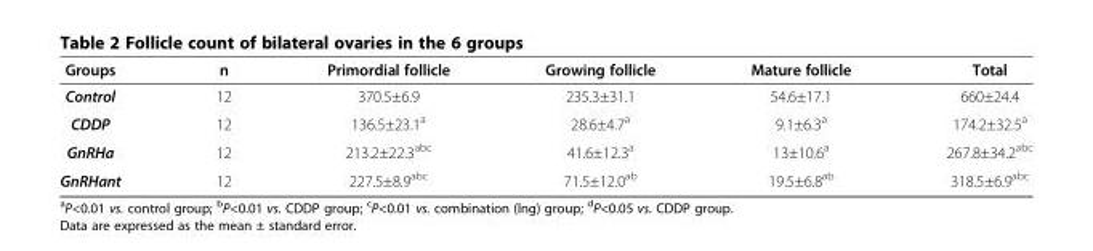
<table><thead><tr><td>Groups</td><td>n</td><td>Primordial follicle</td><td>Growing follicle</td><td>Mature follicle</td><td>Total</td></tr></thead><tbody><tr><td>Control</td><td>12</td><td>370.5±6.9</td><td>235.3±31.1</td><td>54.6±17.1</td><td>660±24.4</td></tr><tr><td>CDDP</td><td>12</td><td>136.5±23.1<sup>a</sup></td><td>28.6±4.7<sup>a</sup></td><td>9.1±6.3<sup>a</sup></td><td>174.2±32.5<sup>a</sup></td></tr><tr><td>GnRHa</td><td>12</td><td>213.2±22.3<sup>abc</sup></td><td>41.6±12.3<sup>a</sup></td><td>13±10.6<sup>a</sup></td><td>267.8±34.2<sup>abc</sup></td></tr><tr><td>GnRHant</td><td>12</td><td>227.5±8.9<sup>abc</sup></td><td>71.5±12.0<sup>ab</sup></td><td>19.5±6.8<sup>ab</sup></td><td>318.5±6.9<sup>abc</sup></td></tr></tbody></table>